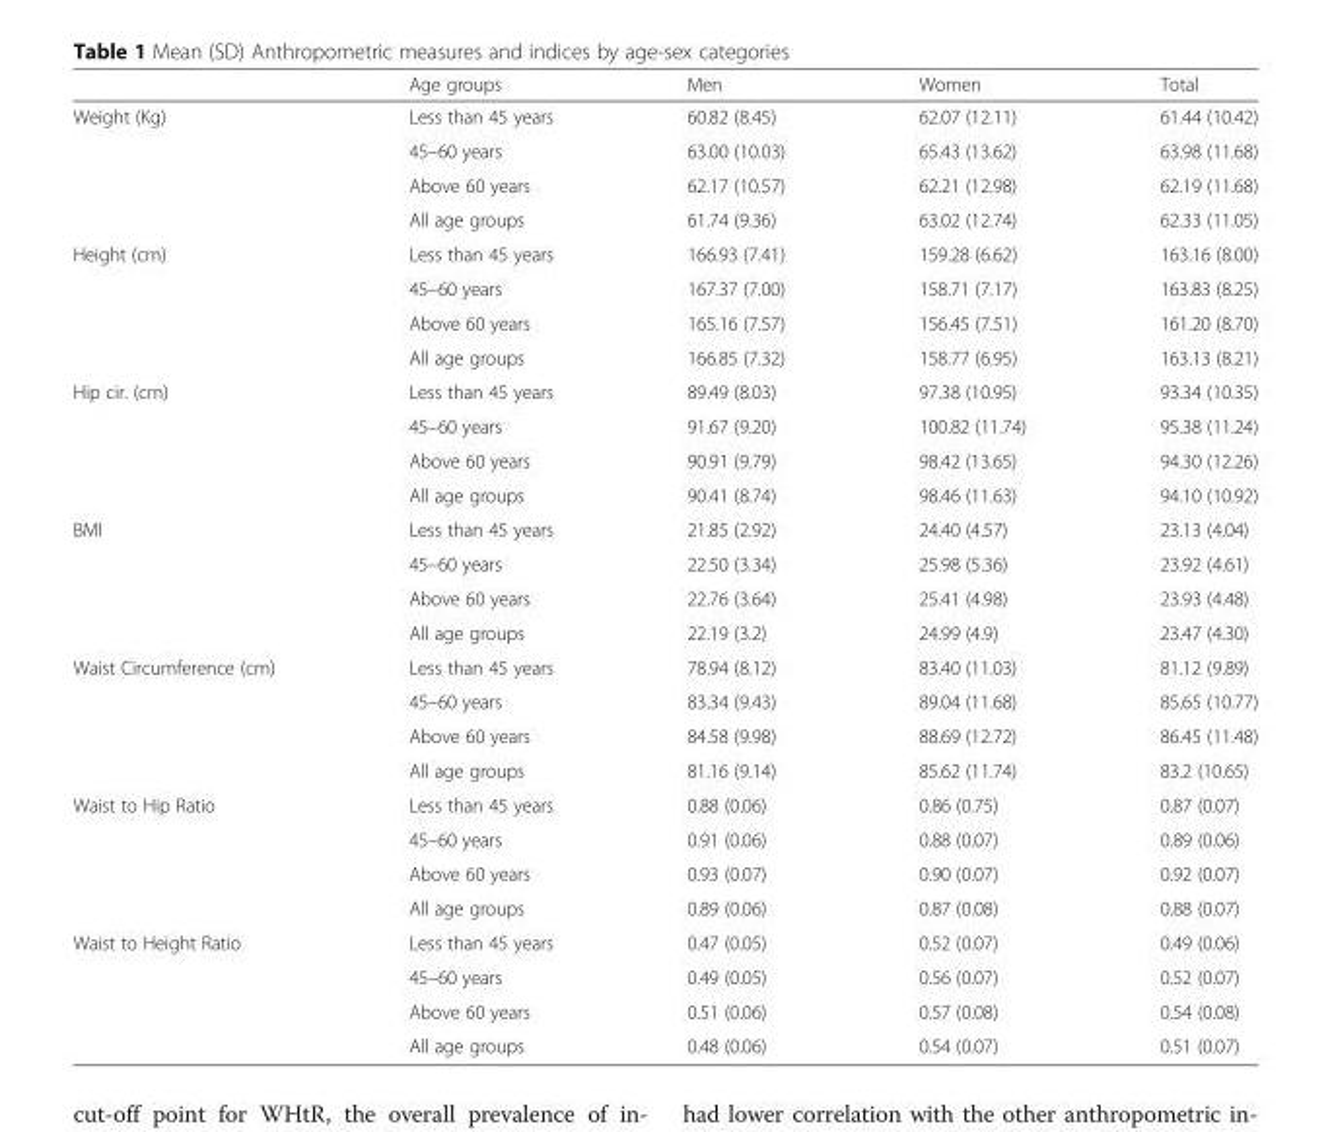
<table><thead><tr><td></td><td>Age groups</td><td>Men</td><td>Women</td><td>Total</td></tr></thead><tbody><tr><td rowspan="4">Weight (Kg)</td><td>Less than 45 years</td><td>60.82 (8.45)</td><td>62.07 (12.11)</td><td>61.44 (10.42)</td></tr><tr><td>45–60 years</td><td>63.00 (10.03)</td><td>65.43 (13.62)</td><td>63.98 (11.68)</td></tr><tr><td>Above 60 years</td><td>62.17 (10.57)</td><td>62.21 (12.98)</td><td>62.19 (11.68)</td></tr><tr><td>All age groups</td><td>61.74 (9.36)</td><td>63.02 (12.74)</td><td>62.33 (11.05)</td></tr><tr><td rowspan="4">Height (cm)</td><td>Less than 45 years</td><td>166.93 (7.41)</td><td>159.28 (6.62)</td><td>163.16 (8.00)</td></tr><tr><td>45–60 years</td><td>167.37 (7.00)</td><td>158.71 (7.17)</td><td>163.83 (8.25)</td></tr><tr><td>Above 60 years</td><td>165.16 (7.57)</td><td>156.45 (7.51)</td><td>161.20 (8.70)</td></tr><tr><td>All age groups</td><td>166.85 (7.32)</td><td>158.77 (6.95)</td><td>163.13 (8.21)</td></tr><tr><td rowspan="4">Hip cir. (cm)</td><td>Less than 45 years</td><td>89.49 (8.03)</td><td>97.38 (10.95)</td><td>93.34 (10.35)</td></tr><tr><td>45–60 years</td><td>91.67 (9.20)</td><td>100.82 (11.74)</td><td>95.38 (11.24)</td></tr><tr><td>Above 60 years</td><td>90.91 (9.79)</td><td>98.42 (13.65)</td><td>94.30 (12.26)</td></tr><tr><td>All age groups</td><td>90.41 (8.74)</td><td>98.46 (11.63)</td><td>94.10 (10.92)</td></tr><tr><td rowspan="4">BMI</td><td>Less than 45 years</td><td>21.85 (2.92)</td><td>24.40 (4.57)</td><td>23.13 (4.04)</td></tr><tr><td>45–60 years</td><td>22.50 (3.34)</td><td>25.98 (5.36)</td><td>23.92 (4.61)</td></tr><tr><td>Above 60 years</td><td>22.76 (3.64)</td><td>25.41 (4.98)</td><td>23.93 (4.48)</td></tr><tr><td>All age groups</td><td>22.19 (3.2)</td><td>24.99 (4.9)</td><td>23.47 (4.30)</td></tr><tr><td rowspan="4">Waist Circumference (cm)</td><td>Less than 45 years</td><td>78.94 (8.12)</td><td>83.40 (11.03)</td><td>81.12 (9.89)</td></tr><tr><td>45–60 years</td><td>83.34 (9.43)</td><td>89.04 (11.68)</td><td>85.65 (10.77)</td></tr><tr><td>Above 60 years</td><td>84.58 (9.98)</td><td>88.69 (12.72)</td><td>86.45 (11.48)</td></tr><tr><td>All age groups</td><td>81.16 (9.14)</td><td>85.62 (11.74)</td><td>83.2 (10.65)</td></tr><tr><td rowspan="4">Waist to Hip Ratio</td><td>Less than 45 years</td><td>0.88 (0.06)</td><td>0.86 (0.75)</td><td>0.87 (0.07)</td></tr><tr><td>45–60 years</td><td>0.91 (0.06)</td><td>0.88 (0.07)</td><td>0.89 (0.06)</td></tr><tr><td>Above 60 years</td><td>0.93 (0.07)</td><td>0.90 (0.07)</td><td>0.92 (0.07)</td></tr><tr><td>All age groups</td><td>0.89 (0.06)</td><td>0.87 (0.08)</td><td>0.88 (0.07)</td></tr><tr><td rowspan="4">Waist to Height Ratio</td><td>Less than 45 years</td><td>0.47 (0.05)</td><td>0.52 (0.07)</td><td>0.49 (0.06)</td></tr><tr><td>45–60 years</td><td>0.49 (0.05)</td><td>0.56 (0.07)</td><td>0.52 (0.07)</td></tr><tr><td>Above 60 years</td><td>0.51 (0.06)</td><td>0.57 (0.08)</td><td>0.54 (0.08)</td></tr><tr><td>All age groups</td><td>0.48 (0.06)</td><td>0.54 (0.07)</td><td>0.51 (0.07)</td></tr></tbody></table>